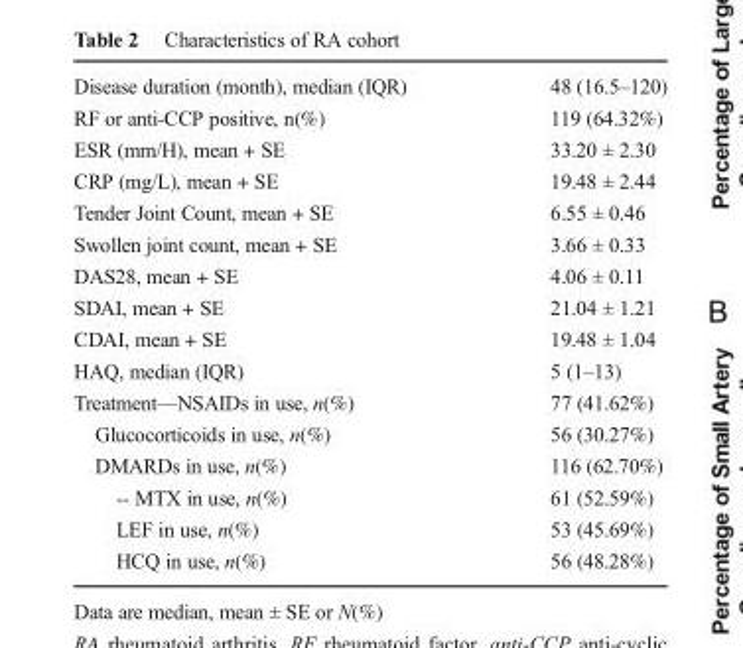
<table><tbody><tr><td>Disease duration (month), median (IQR)</td><td>48 (16.5–120)</td></tr><tr><td>RF or anti-CCP positive, n(%)</td><td>119 (64.32%)</td></tr><tr><td>ESR (mm/H), mean + SE</td><td>33.20 ± 2.30</td></tr><tr><td>CRP (mg/L), mean + SE</td><td>19.48 ± 2.44</td></tr><tr><td>Tender Joint Count, mean + SE</td><td>6.55 ± 0.46</td></tr><tr><td>Swollen joint count, mean + SE</td><td>3.66 ± 0.33</td></tr><tr><td>DAS28, mean + SE</td><td>4.06 ± 0.11</td></tr><tr><td>SDAI, mean + SE</td><td>21.04 ± 1.21</td></tr><tr><td>CDAI, mean + SE</td><td>19.48 ± 1.04</td></tr><tr><td>HAQ, median (IQR)</td><td>5 (1–13)</td></tr><tr><td>Treatment—NSAIDs in use, n(%)</td><td>77 (41.62%)</td></tr><tr><td>Glucocorticoids in use, n(%)</td><td>56 (30.27%)</td></tr><tr><td>DMARDs in use, n(%)</td><td>116 (62.70%)</td></tr><tr><td>-- MTX in use, n(%)</td><td>61 (52.59%)</td></tr><tr><td>LEF in use, n(%)</td><td>53 (45.69%)</td></tr><tr><td>HCQ in use, n(%)</td><td>56 (48.28%)</td></tr></tbody></table>